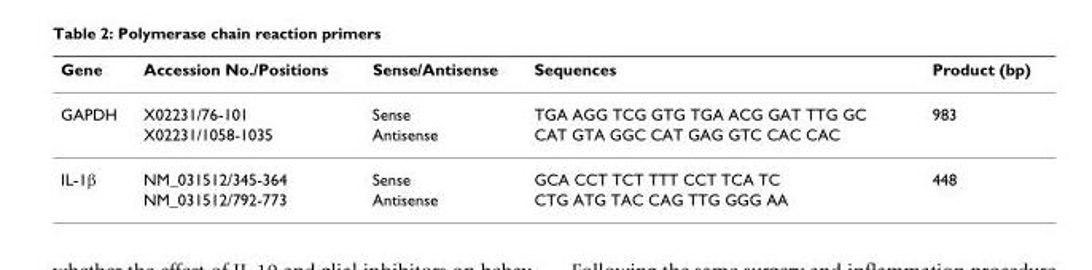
<table><thead><tr><td>Gene</td><td>Accession No./Positions</td><td>Sense/Antisense</td><td>Sequences</td><td>Product (bp)</td></tr></thead><tbody><tr><td rowspan="2">GAPDH</td><td>X02231/76-101</td><td>Sense</td><td>TGA AGG TCG GTG TGA ACG GAT TTG GC</td><td>983</td></tr><tr><td>X02231/1058-1035</td><td>Antisense</td><td>CAT GTA GGC CAT GAG GTC CAC CAC</td><td></td></tr><tr><td rowspan="2">IL-1β</td><td>NM_031512/345-364</td><td>Sense</td><td>GCA CCT TCT TTT CCT TCA TC</td><td>448</td></tr><tr><td>NM_031512/792-773</td><td>Antisense</td><td>CTG ATG TAC CAG TTG GGG AA</td><td></td></tr></tbody></table>